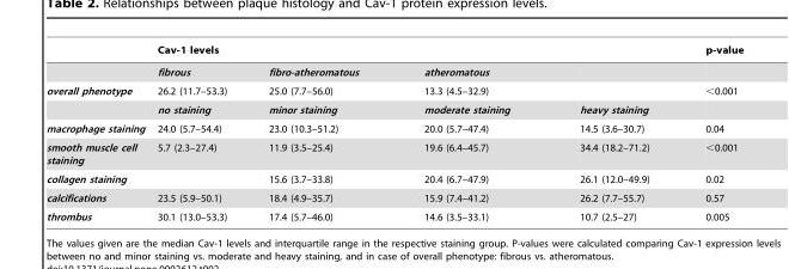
<table><thead><tr><td rowspan="2"></td><td colspan="4">Cav-1 levels</td><td rowspan="2">p-value</td></tr><tr><td>fibrous</td><td>fibro-atheromatous</td><td>atheromatous</td><td></td></tr></thead><tbody><tr><td rowspan="2">overall phenotype</td><td>26.2 (11.7–53.3)</td><td>25.0 (7.7–56.0)</td><td>13.3 (4.5–32.9)</td><td></td><td>&lt;0.001</td></tr><tr><td>no staining</td><td>minor staining</td><td>moderate staining</td><td>heavy staining</td><td></td></tr><tr><td>macrophage staining</td><td>24.0 (5.7–54.4)</td><td>23.0 (10.3–51.2)</td><td>20.0 (5.7–47.4)</td><td>14.5 (3.6–30.7)</td><td>0.04</td></tr><tr><td>smooth muscle cell staining</td><td>5.7 (2.3–27.4)</td><td>11.9 (3.5–25.4)</td><td>19.6 (6.4–45.7)</td><td>34.4 (18.2–71.2)</td><td>&lt;0.001</td></tr><tr><td>collagen staining</td><td></td><td>15.6 (3.7–33.8)</td><td>20.4 (6.7–47.9)</td><td>26.1 (12.0–49.9)</td><td>0.02</td></tr><tr><td>calcifications</td><td>23.5 (5.9–50.1)</td><td>18.4 (4.9–35.7)</td><td>15.9 (7.4–41.2)</td><td>26.2 (7.7–55.7)</td><td>0.57</td></tr><tr><td>thrombus</td><td>30.1 (13.0–53.3)</td><td>17.4 (5.7–46.0)</td><td>14.6 (3.5–33.1)</td><td>10.7 (2.5–27)</td><td>0.005</td></tr></tbody></table>